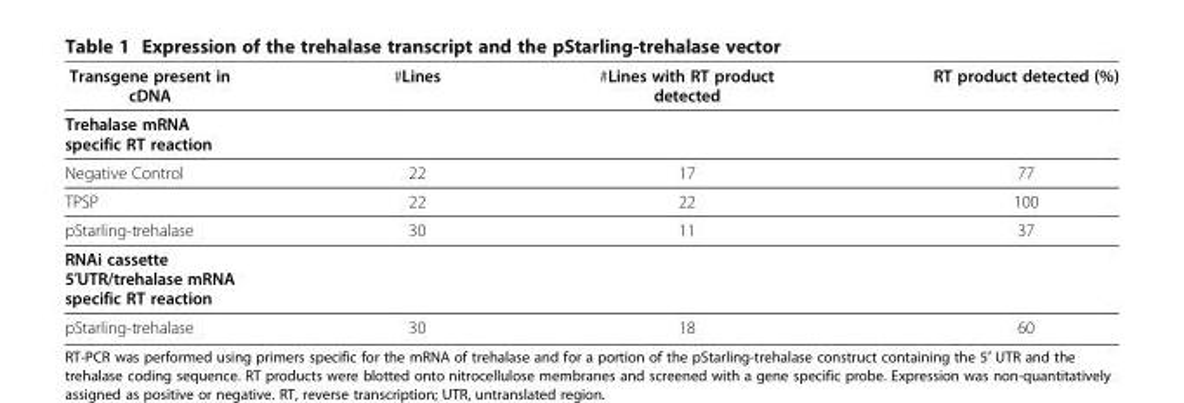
<table><thead><tr><td>Transgene present in cDNA</td><td>#Lines</td><td>#Lines with RT product detected</td><td>RT product detected (%)</td></tr></thead><tbody><tr><td colspan="4">Trehalase mRNA specific RT reaction</td></tr><tr><td>Negative Control</td><td>22</td><td>17</td><td>77</td></tr><tr><td>TPSP</td><td>22</td><td>22</td><td>100</td></tr><tr><td>pStarling-trehalase</td><td>30</td><td>11</td><td>37</td></tr><tr><td colspan="4">RNAi cassette 5′UTR/trehalase mRNA specific RT reaction</td></tr><tr><td>pStarling-trehalase</td><td>30</td><td>18</td><td>60</td></tr></tbody></table>